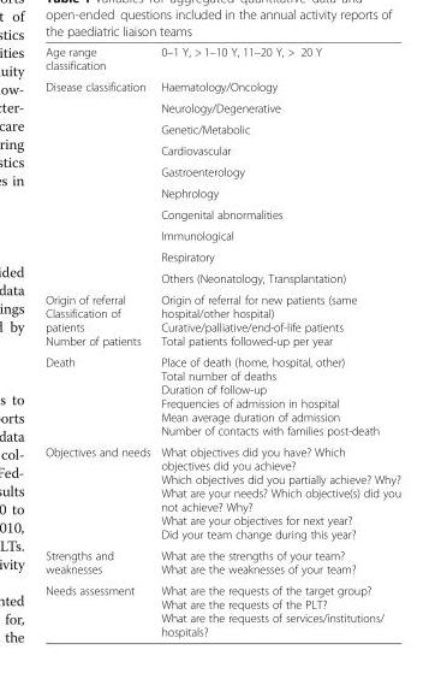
<table><tbody><tr><td>Age range classification</td><td>0–1 Y, &gt; 1–10 Y, 11–20 Y, &gt; 20 Y</td></tr><tr><td rowspan="10">Disease classification</td><td>Haematology/Oncology</td></tr><tr><td>Neurology/Degenerative</td></tr><tr><td>Genetic/Metabolic</td></tr><tr><td>Cardiovascular</td></tr><tr><td>Gastroenterology</td></tr><tr><td>Nephrology</td></tr><tr><td>Congenital abnormalities</td></tr><tr><td>Immunological</td></tr><tr><td>Respiratory</td></tr><tr><td>Others (Neonatology, Transplantation)</td></tr><tr><td>Origin of referral Classification of patients Number of patients</td><td>Origin of referral for new patients (same hospital/other hospital) Curative/palliative/end-of-life patients Total patients followed-up per year</td></tr><tr><td>Death</td><td>Place of death (home, hospital, other) Total number of deaths Duration of follow-up Frequencies of admission in hospital Mean average duration of admission Number of contacts with families post-death</td></tr><tr><td>Objectives and needs</td><td>What objectives did you have? Which objectives did you achieve? Which objectives did you partially achieve? Why? What are your needs? Which objective(s) did you not achieve? Why? What are your objectives for next year? Did your team change during this year?</td></tr><tr><td>Strengths and weaknesses</td><td>What are the strengths of your team? What are the weaknesses of your team?</td></tr><tr><td>Needs assessment</td><td>What are the requests of the target group? What are the requests of the PLT? What are the requests of services/institutions/ hospitals?</td></tr></tbody></table>